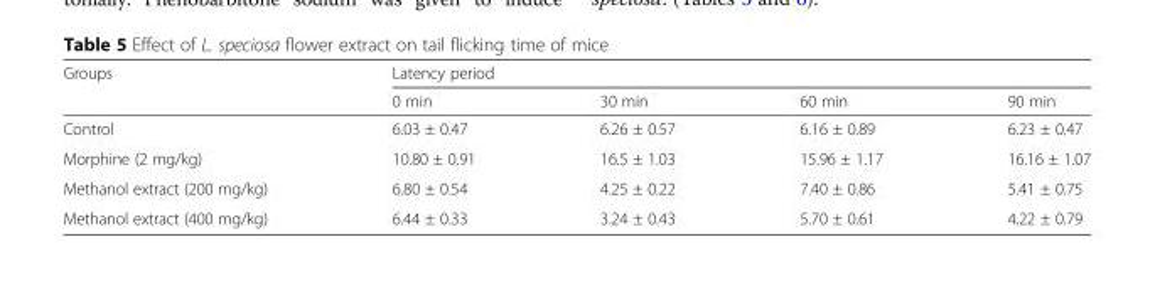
<table><thead><tr><td rowspan="2">Groups</td><td colspan="4">Latency period</td></tr><tr><td>0 min</td><td>30 min</td><td>60 min</td><td>90 min</td></tr></thead><tbody><tr><td>Control</td><td>6.03 ± 0.47</td><td>6.26 ± 0.57</td><td>6.16 ± 0.89</td><td>6.23 ± 0.47</td></tr><tr><td>Morphine (2 mg/kg)</td><td>10.80 ± 0.91</td><td>16.5 ± 1.03</td><td>15.96 ± 1.17</td><td>16.16 ± 1.07</td></tr><tr><td>Methanol extract (200 mg/kg)</td><td>6.80 ± 0.54</td><td>4.25 ± 0.22</td><td>7.40 ± 0.86</td><td>5.41 ± 0.75</td></tr><tr><td>Methanol extract (400 mg/kg)</td><td>6.44 ± 0.33</td><td>3.24 ± 0.43</td><td>5.70 ± 0.61</td><td>4.22 ± 0.79</td></tr></tbody></table>